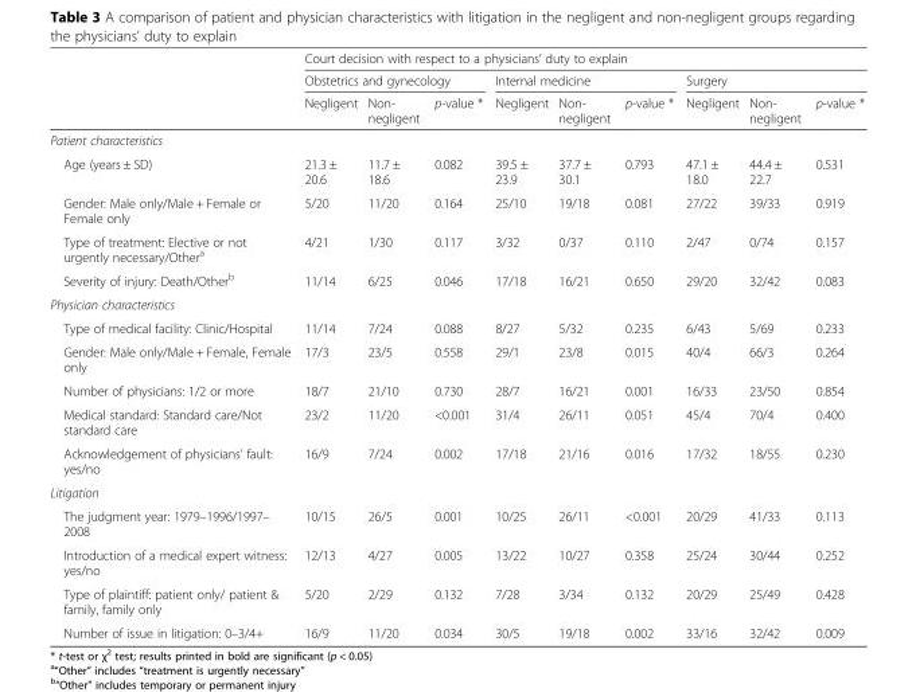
<table><thead><tr><td rowspan="3"></td><td colspan="9">Court decision with respect to a physicians’ duty to explain</td></tr><tr><td colspan="3">Obstetrics and gynecology</td><td colspan="3">Internal medicine</td><td colspan="3">Surgery</td></tr><tr><td>Negligent</td><td>Non- negligent</td><td>p-value *</td><td>Negligent</td><td>Non- negligent</td><td>p-value *</td><td>Negligent</td><td>Non- negligent</td><td>p-value *</td></tr></thead><tbody><tr><td colspan="10">Patient characteristics</td></tr><tr><td>Age (years ± SD)</td><td>21.3 ± 20.6</td><td>11.7 ± 18.6</td><td>0.082</td><td>39.5 ± 23.9</td><td>37.7 ± 30.1</td><td>0.793</td><td>47.1 ± 18.0</td><td>44.4 ± 22.7</td><td>0.531</td></tr><tr><td>Gender: Male only/Male + Female or Female only</td><td>5/20</td><td>11/20</td><td>0.164</td><td>25/10</td><td>19/18</td><td>0.081</td><td>27/22</td><td>39/33</td><td>0.919</td></tr><tr><td>Type of treatment: Elective or not urgently necessary/Other<sup>a</sup></td><td>4/21</td><td>1/30</td><td>0.117</td><td>3/32</td><td>0/37</td><td>0.110</td><td>2/47</td><td>0/74</td><td>0.157</td></tr><tr><td>Severity of injury: Death/Other<sup>b</sup></td><td>11/14</td><td>6/25</td><td>0.046</td><td>17/18</td><td>16/21</td><td>0.650</td><td>29/20</td><td>32/42</td><td>0.083</td></tr><tr><td colspan="10">Physician characteristics</td></tr><tr><td>Type of medical facility: Clinic/Hospital</td><td>11/14</td><td>7/24</td><td>0.088</td><td>8/27</td><td>5/32</td><td>0.235</td><td>6/43</td><td>5/69</td><td>0.233</td></tr><tr><td>Gender: Male only/Male + Female, Female only</td><td>17/3</td><td>23/5</td><td>0.558</td><td>29/1</td><td>23/8</td><td>0.015</td><td>40/4</td><td>66/3</td><td>0.264</td></tr><tr><td>Number of physicians: 1/2 or more</td><td>18/7</td><td>21/10</td><td>0.730</td><td>28/7</td><td>16/21</td><td>0.001</td><td>16/33</td><td>23/50</td><td>0.854</td></tr><tr><td>Medical standard: Standard care/Not standard care</td><td>23/2</td><td>11/20</td><td>&lt;0.001</td><td>31/4</td><td>26/11</td><td>0.051</td><td>45/4</td><td>70/4</td><td>0.400</td></tr><tr><td>Acknowledgement of physicians’ fault: yes/no</td><td>16/9</td><td>7/24</td><td>0.002</td><td>17/18</td><td>21/16</td><td>0.016</td><td>17/32</td><td>18/55</td><td>0.230</td></tr><tr><td colspan="10">Litigation</td></tr><tr><td>The judgment year: 1979–1996/1997– 2008</td><td>10/15</td><td>26/5</td><td>0.001</td><td>10/25</td><td>26/11</td><td>&lt;0.001</td><td>20/29</td><td>41/33</td><td>0.113</td></tr><tr><td>Introduction of a medical expert witness: yes/no</td><td>12/13</td><td>4/27</td><td>0.005</td><td>13/22</td><td>10/27</td><td>0.358</td><td>25/24</td><td>30/44</td><td>0.252</td></tr><tr><td>Type of plaintiff: patient only/ patient &amp; family, family only</td><td>5/20</td><td>2/29</td><td>0.132</td><td>7/28</td><td>3/34</td><td>0.132</td><td>20/29</td><td>25/49</td><td>0.428</td></tr><tr><td>Number of issue in litigation: 0–3/4+</td><td>16/9</td><td>11/20</td><td>0.034</td><td>30/5</td><td>19/18</td><td>0.002</td><td>33/16</td><td>32/42</td><td>0.009</td></tr></tbody></table>